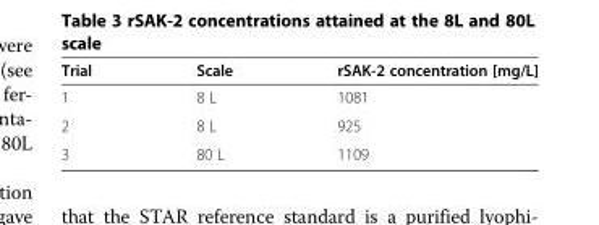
<table><thead><tr><td>Trial</td><td>Scale</td><td>rSAK-2 concentration [mg/L]</td></tr></thead><tbody><tr><td>1</td><td>8 L</td><td>1081</td></tr><tr><td>2</td><td>8 L</td><td>925</td></tr><tr><td>3</td><td>80 L</td><td>1109</td></tr></tbody></table>